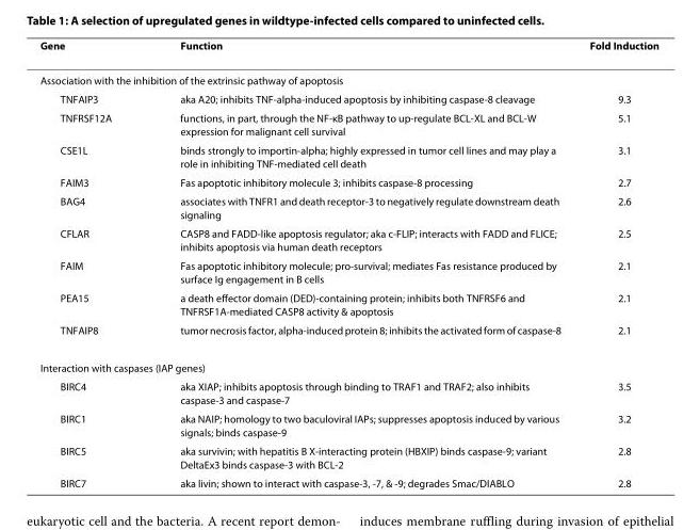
<table><thead><tr><td>Gene</td><td>Function</td><td>Fold Induction</td></tr></thead><tbody><tr><td colspan="3">Association with the inhibition of the extrinsic pathway of apoptosis</td></tr><tr><td>TNFAIP3</td><td>aka A20; inhibits TNF-alpha-induced apoptosis by inhibiting caspase-8 cleavage</td><td>9.3</td></tr><tr><td>TNFRSF12A</td><td>functions, in part, through the NF-κB pathway to up-regulate BCL-XL and BCL-W expression for malignant cell survival</td><td>5.1</td></tr><tr><td>CSE1L</td><td>binds strongly to importin-alpha; highly expressed in tumor cell lines and may play a role in inhibiting TNF-mediated cell death</td><td>3.1</td></tr><tr><td>FAIM3</td><td>Fas apoptotic inhibitory molecule 3; inhibits caspase-8 processing</td><td>2.7</td></tr><tr><td>BAG4</td><td>associates with TNFR1 and death receptor-3 to negatively regulate downstream death signaling</td><td>2.6</td></tr><tr><td>CFLAR</td><td>CASP8 and FADD-like apoptosis regulator; aka c-FLIP; interacts with FADD and FLICE; inhibits apoptosis via human death receptors</td><td>2.5</td></tr><tr><td>FAIM</td><td>Fas apoptotic inhibitory molecule; pro-survival; mediates Fas resistance produced by surface Ig engagement in B cells</td><td>2.1</td></tr><tr><td>PEA15</td><td>a death effector domain (DED)-containing protein; inhibits both TNFRSF6 and TNFRSF1A-mediated CASP8 activity &amp; apoptosis</td><td>2.1</td></tr><tr><td>TNFAIP8</td><td>tumor necrosis factor, alpha-induced protein 8; inhibits the activated form of caspase-8</td><td>2.1</td></tr><tr><td colspan="3">Interaction with caspases (IAP genes)</td></tr><tr><td>BIRC4</td><td>aka XIAP; inhibits apoptosis through binding to TRAF1 and TRAF2; also inhibits caspase-3 and caspase-7</td><td>3.5</td></tr><tr><td>BIRC1</td><td>aka NAIP; homology to two baculoviral IAPs; suppresses apoptosis induced by various signals; binds caspase-9</td><td>3.2</td></tr><tr><td>BIRC5</td><td>aka survivin; with hepatitis B X-interacting protein (HBXIP) binds caspase-9; variant DeltaEx3 binds caspase-3 with BCL-2</td><td>2.8</td></tr><tr><td>BIRC7</td><td>aka livin; shown to interact with caspase-3, -7, &amp; -9; degrades Smac/DIABLO</td><td>2.8</td></tr></tbody></table>